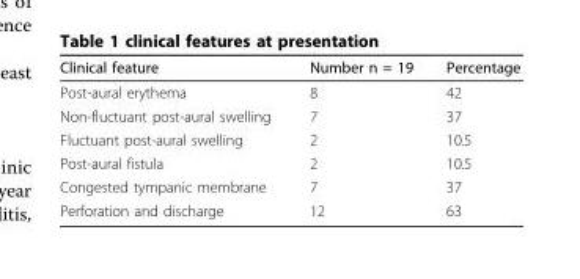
<table><thead><tr><td>Clinical feature</td><td>Number n = 19</td><td>Percentage</td></tr></thead><tbody><tr><td>Post-aural erythema</td><td>8</td><td>42</td></tr><tr><td>Non-fluctuant post-aural swelling</td><td>7</td><td>37</td></tr><tr><td>Fluctuant post-aural swelling</td><td>2</td><td>10.5</td></tr><tr><td>Post-aural fistula</td><td>2</td><td>10.5</td></tr><tr><td>Congested tympanic membrane</td><td>7</td><td>37</td></tr><tr><td>Perforation and discharge</td><td>12</td><td>63</td></tr></tbody></table>